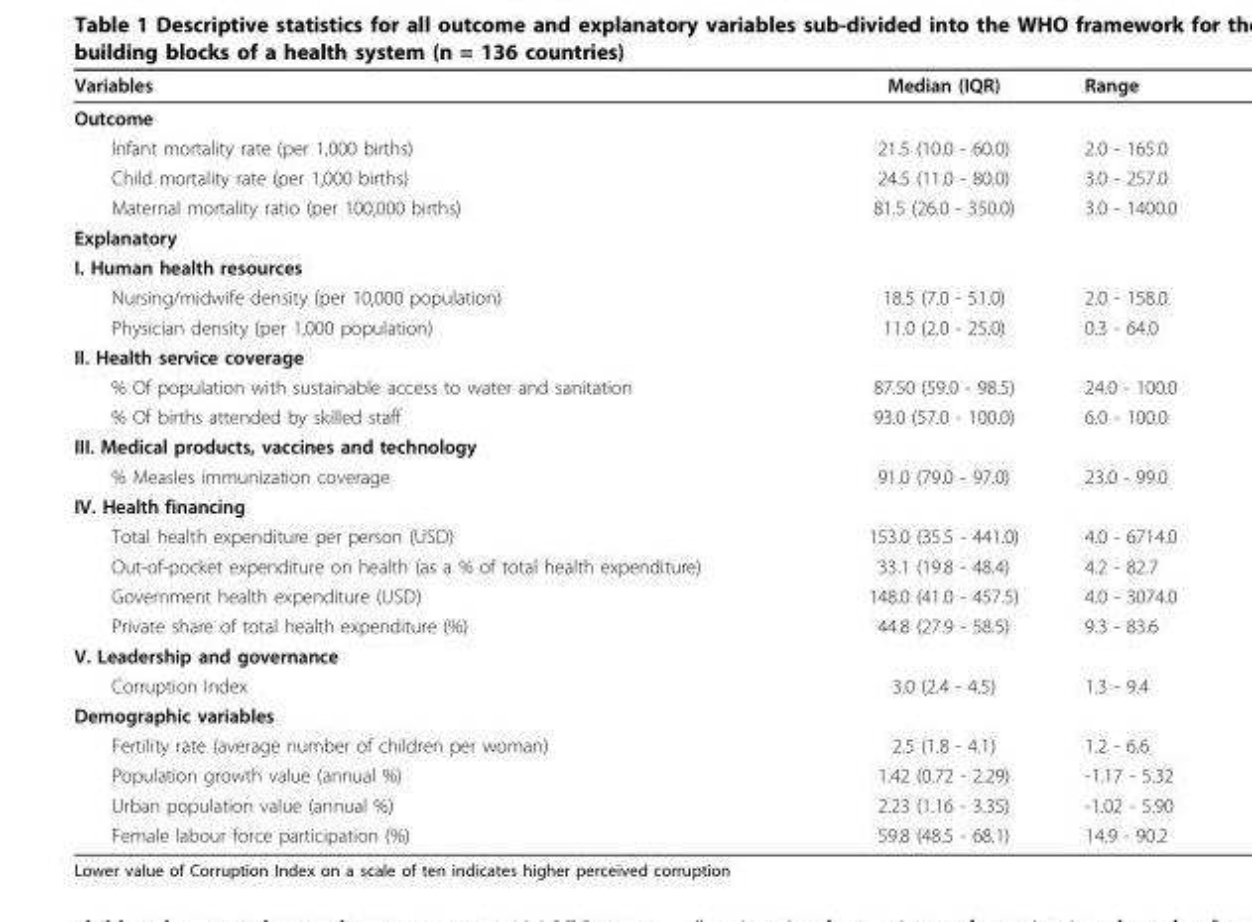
<table><thead><tr><td>Variables</td><td>Median (IQR)</td><td>Range</td></tr></thead><tbody><tr><td colspan="3">Outcome</td></tr><tr><td>Infant mortality rate (per 1,000 births)</td><td>21.5 (10.0 - 60.0)</td><td>2.0 - 165.0</td></tr><tr><td>Child mortality rate (per 1,000 births)</td><td>24.5 (11.0 - 80.0)</td><td>3.0 - 257.0</td></tr><tr><td>Maternal mortality ratio (per 100,000 births)</td><td>81.5 (26.0 - 350.0)</td><td>3.0 - 1400.0</td></tr><tr><td colspan="3">Explanatory</td></tr><tr><td colspan="3">I. Human health resources</td></tr><tr><td>Nursing/midwife density (per 10,000 population)</td><td>18.5 (7.0 - 51.0)</td><td>2.0 - 158.0</td></tr><tr><td>Physician density (per 1,000 population)</td><td>11.0 (2.0 - 25.0)</td><td>0.3 - 64.0</td></tr><tr><td colspan="3">II. Health service coverage</td></tr><tr><td>% Of population with sustainable access to water and sanitation</td><td>87.50 (59.0 - 98.5)</td><td>24.0 - 100.0</td></tr><tr><td>% Of births attended by skilled staff</td><td>93.0 (57.0 - 100.0)</td><td>6.0 - 100.0</td></tr><tr><td colspan="3">III. Medical products, vaccines and technology</td></tr><tr><td>% Measles immunization coverage</td><td>91.0 (79.0 - 97.0)</td><td>23.0 - 99.0</td></tr><tr><td colspan="3">IV. Health financing</td></tr><tr><td>Total health expenditure per person (USD)</td><td>153.0 (35.5 - 441.0)</td><td>4.0 - 6714.0</td></tr><tr><td>Out-of-pocket expenditure on health (as a % of total health expenditure)</td><td>33.1 (19.8 - 48.4)</td><td>4.2 - 82.7</td></tr><tr><td>Government health expenditure (USD)</td><td>148.0 (41.0 - 457.5)</td><td>4.0 - 3074.0</td></tr><tr><td>Private share of total health expenditure (%)</td><td>44.8 (27.9 - 58.5)</td><td>9.3 - 83.6</td></tr><tr><td colspan="3">V. Leadership and governance</td></tr><tr><td>Corruption Index</td><td>3.0 (2.4 - 4.5)</td><td>1.3 - 9.4</td></tr><tr><td colspan="3">Demographic variables</td></tr><tr><td>Fertility rate (average number of children per woman)</td><td>2.5 (1.8 - 4.1)</td><td>1.2 - 6.6</td></tr><tr><td>Population growth value (annual %)</td><td>1.42 (0.72 - 2.29)</td><td>-1.17 - 5.32</td></tr><tr><td>Urban population value (annual %)</td><td>2.23 (1.16 - 3.35)</td><td>-1.02 - 5.90</td></tr><tr><td>Female labour force participation (%)</td><td>59.8 (48.5 - 68.1)</td><td>14.9 - 90.2</td></tr></tbody></table>